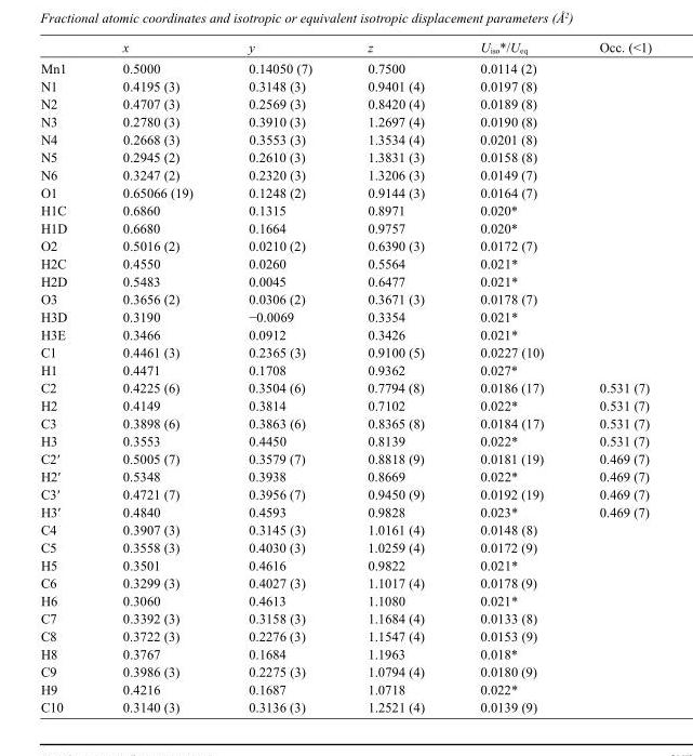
<table><thead><tr><td></td><td>x</td><td>y</td><td>z</td><td>U<sub>iso</sub>*/U<sub>eq</sub></td><td>Occ. (&lt;1)</td></tr></thead><tbody><tr><td>Mn1</td><td>0.5000</td><td>0.14050 (7)</td><td>0.7500</td><td>0.0114 (2)</td><td></td></tr><tr><td>N1</td><td>0.4195 (3)</td><td>0.3148 (3)</td><td>0.9401 (4)</td><td>0.0197 (8)</td><td></td></tr><tr><td>N2</td><td>0.4707 (3)</td><td>0.2569 (3)</td><td>0.8420 (4)</td><td>0.0189 (8)</td><td></td></tr><tr><td>N3</td><td>0.2780 (3)</td><td>0.3910 (3)</td><td>1.2697 (4)</td><td>0.0190 (8)</td><td></td></tr><tr><td>N4</td><td>0.2668 (3)</td><td>0.3553 (3)</td><td>1.3534 (4)</td><td>0.0201 (8)</td><td></td></tr><tr><td>N5</td><td>0.2945 (2)</td><td>0.2610 (3)</td><td>1.3831 (3)</td><td>0.0158 (8)</td><td></td></tr><tr><td>N6</td><td>0.3247 (2)</td><td>0.2320 (3)</td><td>1.3206 (3)</td><td>0.0149 (7)</td><td></td></tr><tr><td>O1</td><td>0.65066 (19)</td><td>0.1248 (2)</td><td>0.9144 (3)</td><td>0.0164 (7)</td><td></td></tr><tr><td>H1C</td><td>0.6860</td><td>0.1315</td><td>0.8971</td><td>0.020*</td><td></td></tr><tr><td>H1D</td><td>0.6680</td><td>0.1664</td><td>0.9757</td><td>0.020*</td><td></td></tr><tr><td>O2</td><td>0.5016 (2)</td><td>0.0210 (2)</td><td>0.6390 (3)</td><td>0.0172 (7)</td><td></td></tr><tr><td>H2C</td><td>0.4550</td><td>0.0260</td><td>0.5564</td><td>0.021*</td><td></td></tr><tr><td>H2D</td><td>0.5483</td><td>0.0045</td><td>0.6477</td><td>0.021*</td><td></td></tr><tr><td>O3</td><td>0.3656 (2)</td><td>0.0306 (2)</td><td>0.3671 (3)</td><td>0.0178 (7)</td><td></td></tr><tr><td>H3D</td><td>0.3190</td><td>−0.0069</td><td>0.3354</td><td>0.021*</td><td></td></tr><tr><td>H3E</td><td>0.3466</td><td>0.0912</td><td>0.3426</td><td>0.021*</td><td></td></tr><tr><td>C1</td><td>0.4461 (3)</td><td>0.2365 (3)</td><td>0.9100 (5)</td><td>0.0227 (10)</td><td></td></tr><tr><td>H1</td><td>0.4471</td><td>0.1708</td><td>0.9362</td><td>0.027*</td><td></td></tr><tr><td>C2</td><td>0.4225 (6)</td><td>0.3504 (6)</td><td>0.7794 (8)</td><td>0.0186 (17)</td><td>0.531 (7)</td></tr><tr><td>H2</td><td>0.4149</td><td>0.3814</td><td>0.7102</td><td>0.022*</td><td>0.531 (7)</td></tr><tr><td>C3</td><td>0.3898 (6)</td><td>0.3863 (6)</td><td>0.8365 (8)</td><td>0.0184 (17)</td><td>0.531 (7)</td></tr><tr><td>H3</td><td>0.3553</td><td>0.4450</td><td>0.8139</td><td>0.022*</td><td>0.531 (7)</td></tr><tr><td>C2′</td><td>0.5005 (7)</td><td>0.3579 (7)</td><td>0.8818 (9)</td><td>0.0181 (19)</td><td>0.469 (7)</td></tr><tr><td>H2′</td><td>0.5348</td><td>0.3938</td><td>0.8669</td><td>0.022*</td><td>0.469 (7)</td></tr><tr><td>C3′</td><td>0.4721 (7)</td><td>0.3956 (7)</td><td>0.9450 (9)</td><td>0.0192 (19)</td><td>0.469 (7)</td></tr><tr><td>H3′</td><td>0.4840</td><td>0.4593</td><td>0.9828</td><td>0.023*</td><td>0.469 (7)</td></tr><tr><td>C4</td><td>0.3907 (3)</td><td>0.3145 (3)</td><td>1.0161 (4)</td><td>0.0148 (8)</td><td></td></tr><tr><td>C5</td><td>0.3558 (3)</td><td>0.4030 (3)</td><td>1.0259 (4)</td><td>0.0172 (9)</td><td></td></tr><tr><td>H5</td><td>0.3501</td><td>0.4616</td><td>0.9822</td><td>0.021*</td><td></td></tr><tr><td>C6</td><td>0.3299 (3)</td><td>0.4027 (3)</td><td>1.1017 (4)</td><td>0.0178 (9)</td><td></td></tr><tr><td>H6</td><td>0.3060</td><td>0.4613</td><td>1.1080</td><td>0.021*</td><td></td></tr><tr><td>C7</td><td>0.3392 (3)</td><td>0.3158 (3)</td><td>1.1684 (4)</td><td>0.0133 (8)</td><td></td></tr><tr><td>C8</td><td>0.3722 (3)</td><td>0.2276 (3)</td><td>1.1547 (4)</td><td>0.0153 (9)</td><td></td></tr><tr><td>H8</td><td>0.3767</td><td>0.1684</td><td>1.1963</td><td>0.018*</td><td></td></tr><tr><td>C9</td><td>0.3986 (3)</td><td>0.2275 (3)</td><td>1.0794 (4)</td><td>0.0180 (9)</td><td></td></tr><tr><td>H9</td><td>0.4216</td><td>0.1687</td><td>1.0718</td><td>0.022*</td><td></td></tr><tr><td>C10</td><td>0.3140 (3)</td><td>0.3136 (3)</td><td>1.2521 (4)</td><td>0.0139 (9)</td><td></td></tr></tbody></table>